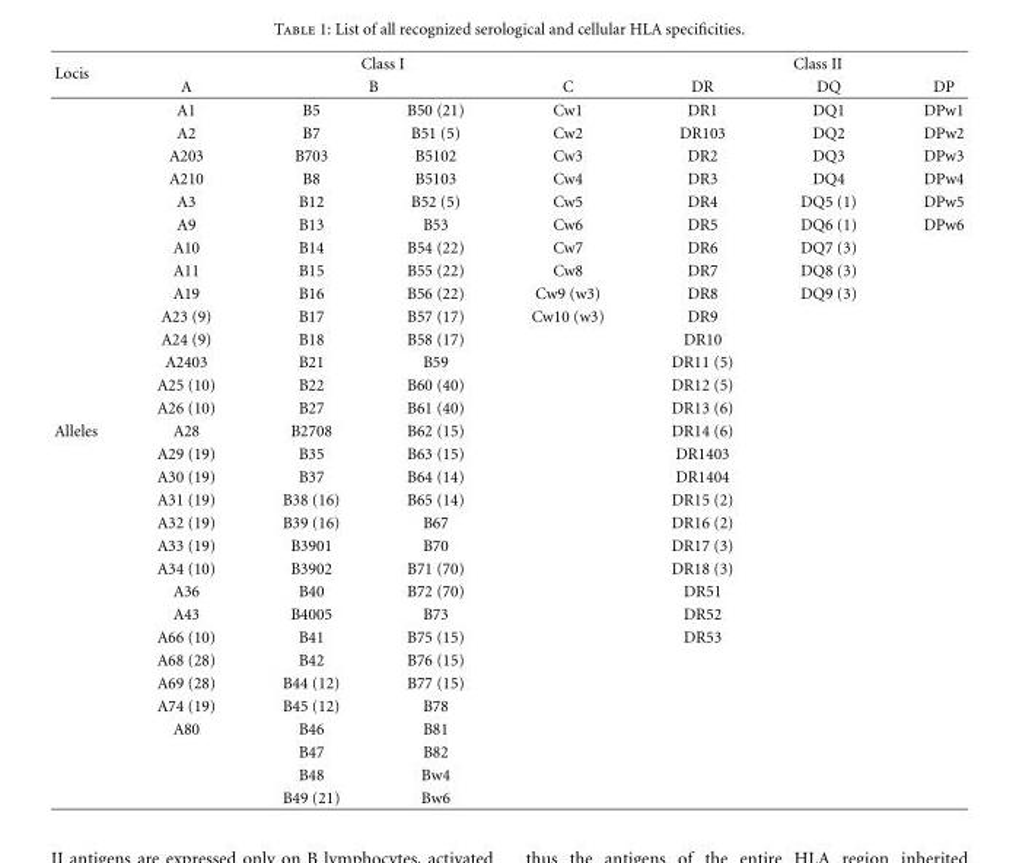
<table><thead><tr><td rowspan="3">Locis</td><td colspan="4">Class I</td><td colspan="3">Class II</td></tr><tr><td rowspan="2">A A1</td><td colspan="2">B</td><td rowspan="2">C Cw1</td><td rowspan="2">DR DR1</td><td rowspan="2">DQ DQ1</td><td rowspan="2">DP DPw1</td></tr><tr><td>B5</td><td>B50 (21)</td></tr></thead><tbody><tr><td></td><td>A2</td><td>B7</td><td>B51 (5)</td><td>Cw2</td><td>DR103</td><td>DQ2</td><td>DPw2</td></tr><tr><td></td><td>A203</td><td>B703</td><td>B5102</td><td>Cw3</td><td>DR2</td><td>DQ3</td><td>DPw3</td></tr><tr><td></td><td>A210</td><td>B8</td><td>B5103</td><td>Cw4</td><td>DR3</td><td>DQ4</td><td>DPw4</td></tr><tr><td></td><td>A3</td><td>B12</td><td>B52 (5)</td><td>Cw5</td><td>DR4</td><td>DQ5 (1)</td><td>DPw5</td></tr><tr><td></td><td>A9</td><td>B13</td><td>B53</td><td>Cw6</td><td>DR5</td><td>DQ6 (1)</td><td>DPw6</td></tr><tr><td></td><td>A10</td><td>B14</td><td>B54 (22)</td><td>Cw7</td><td>DR6</td><td>DQ7 (3)</td><td></td></tr><tr><td></td><td>A11</td><td>B15</td><td>B55 (22)</td><td>Cw8</td><td>DR7</td><td>DQ8 (3)</td><td></td></tr><tr><td></td><td>A19</td><td>B16</td><td>B56 (22)</td><td>Cw9 (w3)</td><td>DR8</td><td>DQ9 (3)</td><td></td></tr><tr><td></td><td>A23 (9)</td><td>B17</td><td>B57 (17)</td><td>Cw10 (w3)</td><td>DR9</td><td></td><td></td></tr><tr><td></td><td>A24 (9)</td><td>B18</td><td>B58 (17)</td><td></td><td>DR10</td><td></td><td></td></tr><tr><td></td><td>A2403</td><td>B21</td><td>B59</td><td></td><td>DR11 (5)</td><td></td><td></td></tr><tr><td></td><td>A25 (10)</td><td>B22</td><td>B60 (40)</td><td></td><td>DR12 (5)</td><td></td><td></td></tr><tr><td></td><td>A26 (10)</td><td>B27</td><td>B61 (40)</td><td></td><td>DR13 (6)</td><td></td><td></td></tr><tr><td rowspan="17">Alleles</td><td>A28</td><td>B2708</td><td>B62 (15)</td><td></td><td>DR14 (6)</td><td></td><td></td></tr><tr><td>A29 (19)</td><td>B35</td><td>B63 (15)</td><td></td><td>DR1403</td><td></td><td></td></tr><tr><td>A30 (19)</td><td>B37</td><td>B64 (14)</td><td></td><td>DR1404</td><td></td><td></td></tr><tr><td>A31 (19)</td><td>B38 (16)</td><td>B65 (14)</td><td></td><td>DR15 (2)</td><td></td><td></td></tr><tr><td>A32 (19)</td><td>B39 (16)</td><td>B67</td><td></td><td>DR16 (2)</td><td></td><td></td></tr><tr><td>A33 (19)</td><td>B3901</td><td>B70</td><td></td><td>DR17 (3)</td><td></td><td></td></tr><tr><td>A34 (10)</td><td>B3902</td><td>B71 (70)</td><td></td><td>DR18 (3)</td><td></td><td></td></tr><tr><td>A36</td><td>B40</td><td>B72 (70)</td><td></td><td>DR51</td><td></td><td></td></tr><tr><td>A43</td><td>B4005</td><td>B73</td><td></td><td>DR52</td><td></td><td></td></tr><tr><td>A66 (10)</td><td>B41</td><td>B75 (15)</td><td></td><td>DR53</td><td></td><td></td></tr><tr><td>A68 (28)</td><td>B42</td><td>B76 (15)</td><td></td><td></td><td></td><td></td></tr><tr><td>A69 (28)</td><td>B44 (12)</td><td>B77 (15)</td><td></td><td></td><td></td><td></td></tr><tr><td>A74 (19)</td><td>B45 (12)</td><td>B78</td><td></td><td></td><td></td><td></td></tr><tr><td>A80</td><td>B46</td><td>B81</td><td></td><td></td><td></td><td></td></tr><tr><td></td><td>B47</td><td>B82</td><td></td><td></td><td></td><td></td></tr><tr><td></td><td>B48</td><td>Bw4</td><td></td><td></td><td></td><td></td></tr><tr><td></td><td>B49 (21)</td><td>Bw6</td><td></td><td></td><td></td><td></td></tr></tbody></table>